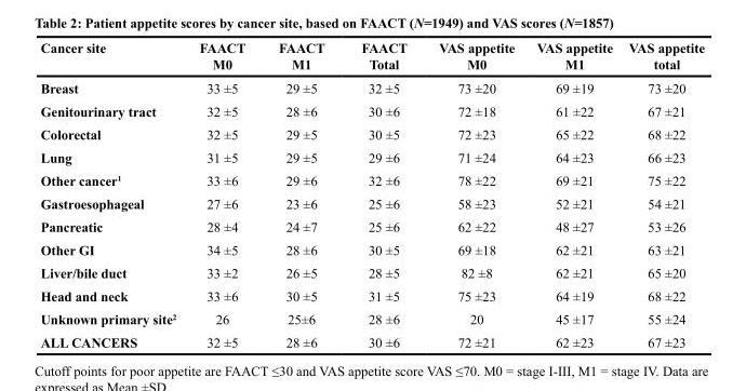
<table><thead><tr><td>Cancer site</td><td>FAACT M0</td><td>FAACT M1</td><td>FAACT Total</td><td>VAS appetite M0</td><td>VAS appetite M1</td><td>VAS appetite total</td></tr></thead><tbody><tr><td>Breast</td><td>33 ±5</td><td>29 ±5</td><td>32 ±5</td><td>73 ±20</td><td>69 ±19</td><td>73 ±20</td></tr><tr><td>Genitourinary tract</td><td>32 ±5</td><td>28 ±6</td><td>30 ±6</td><td>72 ±18</td><td>61 ±22</td><td>67 ±21</td></tr><tr><td>Colorectal</td><td>32 ±5</td><td>29 ±5</td><td>30 ±5</td><td>72 ±23</td><td>65 ±22</td><td>68 ±22</td></tr><tr><td>Lung</td><td>31 ±5</td><td>29 ±5</td><td>29 ±6</td><td>71 ±24</td><td>64 ±23</td><td>66 ±23</td></tr><tr><td>Other cancer<sup>1</sup></td><td>33 ±6</td><td>29 ±6</td><td>32 ±6</td><td>78 ±22</td><td>69 ±21</td><td>75 ±22</td></tr><tr><td>Gastroesophageal</td><td>27 ±6</td><td>23 ±6</td><td>25 ±6</td><td>58 ±23</td><td>52 ±21</td><td>54 ±21</td></tr><tr><td>Pancreatic</td><td>28 ±4</td><td>24 ±7</td><td>25 ±6</td><td>62 ±22</td><td>48 ±27</td><td>53 ±26</td></tr><tr><td>Other GI</td><td>34 ±5</td><td>28 ±6</td><td>30 ±5</td><td>69 ±18</td><td>62 ±21</td><td>63 ±21</td></tr><tr><td>Liver/bile duct</td><td>33 ±2</td><td>26 ±5</td><td>28 ±5</td><td>82 ±8</td><td>62 ±21</td><td>65 ±20</td></tr><tr><td>Head and neck</td><td>33 ±6</td><td>30 ±5</td><td>31 ±5</td><td>75 ±23</td><td>64 ±19</td><td>68 ±22</td></tr><tr><td>Unknown primary site<sup>2</sup></td><td>26</td><td>25±6</td><td>28 ±6</td><td>20</td><td>45 ±17</td><td>55 ±24</td></tr><tr><td>ALL CANCERS</td><td>32 ±5</td><td>28 ±6</td><td>30 ±6</td><td>72 ±21</td><td>62 ±23</td><td>67 ±23</td></tr></tbody></table>